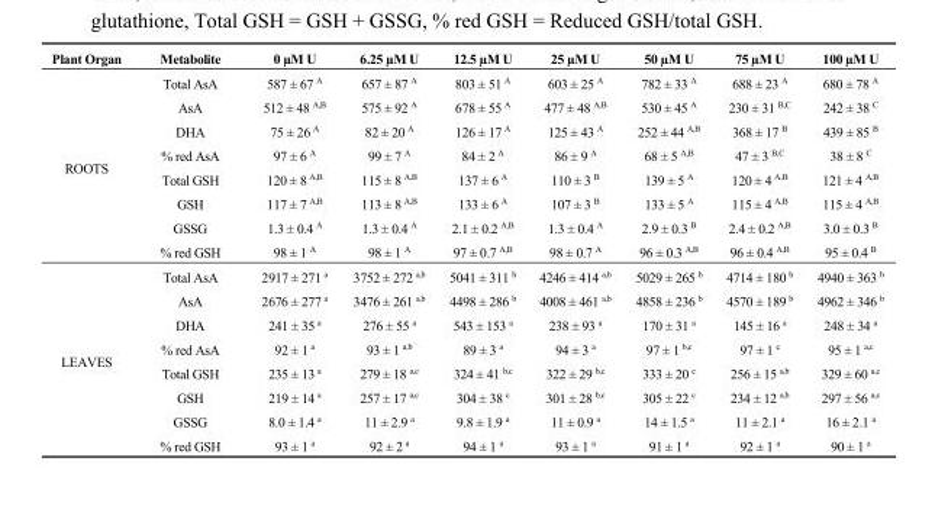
<table><thead><tr><td>Plant Organ</td><td>Metabolite</td><td>0 µM U</td><td>6.25 µM U</td><td>12.5 µM U</td><td>25 µM U</td><td>50 µM U</td><td>75 µM U</td><td>100 µM U</td></tr></thead><tbody><tr><td rowspan="8">ROOTS</td><td>Total AsA</td><td>587 ± 67 <sup>A</sup></td><td>657 ± 87 <sup>A</sup></td><td>803 ± 51 <sup>A</sup></td><td>603 ± 25 <sup>A</sup></td><td>782 ± 33 <sup>A</sup></td><td>688 ± 23 <sup>A</sup></td><td>680 ± 78 <sup>A</sup></td></tr><tr><td>AsA</td><td>512 ± 48 <sup>A,B</sup></td><td>575 ± 92 <sup>A</sup></td><td>678 ± 55 <sup>A</sup></td><td>477 ± 48 <sup>A,B</sup></td><td>530 ± 45 <sup>A</sup></td><td>230 ± 31 <sup>B,C</sup></td><td>242 ± 38 <sup>C</sup></td></tr><tr><td>DHA</td><td>75 ± 26 <sup>A</sup></td><td>82 ± 20 <sup>A</sup></td><td>126 ± 17 <sup>A</sup></td><td>125 ± 43 <sup>A</sup></td><td>252 ± 44 <sup>A,B</sup></td><td>368 ± 17 <sup>B</sup></td><td>439 ± 85 <sup>B</sup></td></tr><tr><td>% red AsA</td><td>97 ± 6 <sup>A</sup></td><td>99 ± 7 <sup>A</sup></td><td>84 ± 2 <sup>A</sup></td><td>86 ± 9 <sup>A</sup></td><td>68 ± 5 <sup>A,B</sup></td><td>47 ± 3 <sup>B,C</sup></td><td>38 ± 8 <sup>C</sup></td></tr><tr><td>Total GSH</td><td>120 ± 8 <sup>A,B</sup></td><td>115 ± 8 <sup>A,B</sup></td><td>137 ± 6 <sup>A</sup></td><td>110 ± 3 <sup>B</sup></td><td>139 ± 5 <sup>A</sup></td><td>120 ± 4 <sup>A,B</sup></td><td>121 ± 4 <sup>A,B</sup></td></tr><tr><td>GSH</td><td>117 ± 7 <sup>A,B</sup></td><td>113 ± 8 <sup>A,B</sup></td><td>133 ± 6 <sup>A</sup></td><td>107 ± 3 <sup>B</sup></td><td>133 ± 5 <sup>A</sup></td><td>115 ± 4 <sup>A,B</sup></td><td>115 ± 4 <sup>A,B</sup></td></tr><tr><td>GSSG</td><td>1.3 ± 0.4 <sup>A</sup></td><td>1.3 ± 0.4 <sup>A</sup></td><td>2.1 ± 0.2 <sup>A,B</sup></td><td>1.3 ± 0.4 <sup>A</sup></td><td>2.9 ± 0.3 <sup>B</sup></td><td>2.4 ± 0.2 <sup>A,B</sup></td><td>3.0 ± 0.3 <sup>B</sup></td></tr><tr><td>% red GSH</td><td>98 ± 1 <sup>A</sup></td><td>98 ± 1 <sup>A</sup></td><td>97 ± 0.7 <sup>A,B</sup></td><td>98 ± 0.7 <sup>A</sup></td><td>96 ± 0.3 <sup>A,B</sup></td><td>96 ± 0.4 <sup>A,B</sup></td><td>95 ± 0.4 <sup>B</sup></td></tr><tr><td rowspan="8">LEAVES</td><td>Total AsA</td><td>2917 ± 271 <sup>a</sup></td><td>3752 ± 272 <sup>a,b</sup></td><td>5041 ± 311 <sup>b</sup></td><td>4246 ± 414 <sup>a,b</sup></td><td>5029 ± 265 <sup>b</sup></td><td>4714 ± 180 <sup>b</sup></td><td>4940 ± 363 <sup>b</sup></td></tr><tr><td>AsA</td><td>2676 ± 277 <sup>a</sup></td><td>3476 ± 261 <sup>a,b</sup></td><td>4498 ± 286 <sup>b</sup></td><td>4008 ± 461 <sup>a,b</sup></td><td>4858 ± 236 <sup>b</sup></td><td>4570 ± 189 <sup>b</sup></td><td>4962 ± 346 <sup>b</sup></td></tr><tr><td>DHA</td><td>241 ± 35 <sup>a</sup></td><td>276 ± 55 <sup>a</sup></td><td>543 ± 153 <sup>a</sup></td><td>238 ± 93 <sup>a</sup></td><td>170 ± 31 <sup>a</sup></td><td>145 ± 16 <sup>a</sup></td><td>248 ± 34 <sup>a</sup></td></tr><tr><td>% red AsA</td><td>92 ± 1 <sup>a</sup></td><td>93 ± 1 <sup>a,b</sup></td><td>89 ± 3 <sup>a</sup></td><td>94 ± 3 <sup>a</sup></td><td>97 ± 1 <sup>b,c</sup></td><td>97 ± 1 <sup>c</sup></td><td>95 ± 1 <sup>a,c</sup></td></tr><tr><td>Total GSH</td><td>235 ± 13 <sup>a</sup></td><td>279 ± 18 <sup>a,c</sup></td><td>324 ± 41 <sup>b,c</sup></td><td>322 ± 29 <sup>b,c</sup></td><td>333 ± 20 <sup>c</sup></td><td>256 ± 15 <sup>a,b</sup></td><td>329 ± 60 <sup>a,c</sup></td></tr><tr><td>GSH</td><td>219 ± 14 <sup>a</sup></td><td>257 ± 17 <sup>a,c</sup></td><td>304 ± 38 <sup>c</sup></td><td>301 ± 28 <sup>b,c</sup></td><td>305 ± 22 <sup>c</sup></td><td>234 ± 12 <sup>a,b</sup></td><td>297 ± 56 <sup>a,c</sup></td></tr><tr><td>GSSG</td><td>8.0 ± 1.4 <sup>a</sup></td><td>11 ± 2.9 <sup>a</sup></td><td>9.8 ± 1.9 <sup>a</sup></td><td>11 ± 0.9 <sup>a</sup></td><td>14 ± 1.5 <sup>a</sup></td><td>11 ± 2.1 <sup>a</sup></td><td>16 ± 2.1 <sup>a</sup></td></tr><tr><td>% red GSH</td><td>93 ± 1 <sup>a</sup></td><td>92 ± 2 <sup>a</sup></td><td>94 ± 1 <sup>a</sup></td><td>93 ± 1 <sup>a</sup></td><td>91 ± 1 <sup>a</sup></td><td>92 ± 1 <sup>a</sup></td><td>90 ± 1 <sup>a</sup></td></tr></tbody></table>